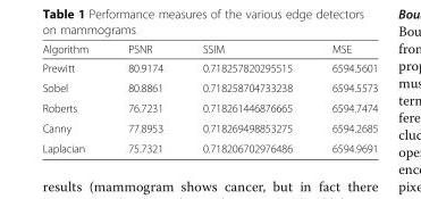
<table><thead><tr><td>Algorithm</td><td>PSNR</td><td>SSIM</td><td>MSE</td></tr></thead><tbody><tr><td>Prewitt</td><td>80.9174</td><td>0.718257820295515</td><td>6594.5601</td></tr><tr><td>Sobel</td><td>80.8861</td><td>0.718258704733238</td><td>6594.5573</td></tr><tr><td>Roberts</td><td>76.7231</td><td>0.718261446876665</td><td>6594.7474</td></tr><tr><td>Canny</td><td>77.8953</td><td>0.718269498853275</td><td>6594.2685</td></tr><tr><td>Laplacian</td><td>75.7321</td><td>0.718206702976486</td><td>6594.9691</td></tr></tbody></table>